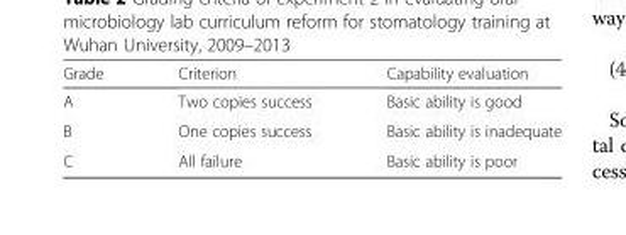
<table><thead><tr><td>Grade</td><td>Criterion</td><td>Capability evaluation</td></tr></thead><tbody><tr><td>A</td><td>Two copies success</td><td>Basic ability is good</td></tr><tr><td>B</td><td>One copies success</td><td>Basic ability is inadequate</td></tr><tr><td>C</td><td>All failure</td><td>Basic ability is poor</td></tr></tbody></table>